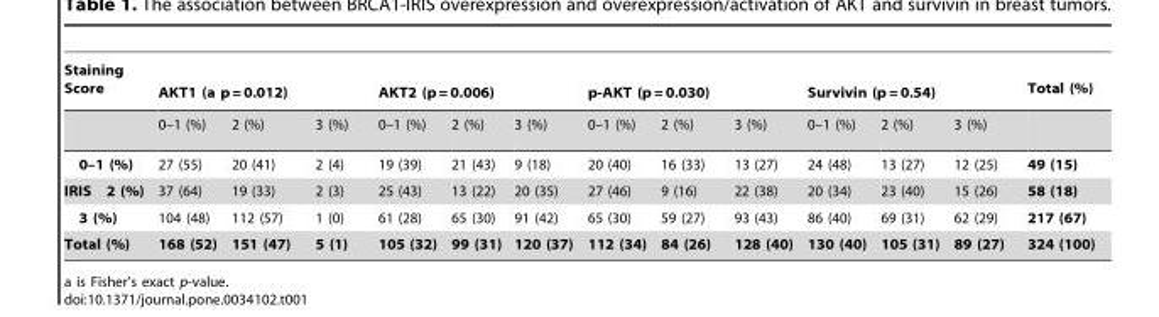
<table><thead><tr><td rowspan="2">Staining Score</td><td colspan="3">AKT1 (a p = 0.012)</td><td colspan="3">AKT2 (p = 0.006)</td><td colspan="3">p-AKT (p = 0.030)</td><td colspan="3">Survivin (p = 0.54)</td><td rowspan="2">Total (%)</td></tr><tr><td>0–1 (%)</td><td>2 (%)</td><td>3 (%)</td><td>0–1 (%)</td><td>2 (%)</td><td>3 (%)</td><td>0–1 (%)</td><td>2 (%)</td><td>3 (%)</td><td>0–1 (%)</td><td>2 (%)</td><td>3 (%)</td></tr></thead><tbody><tr><td>0–1 (%)</td><td>27 (55)</td><td>20 (41)</td><td>2 (4)</td><td>19 (39)</td><td>21 (43)</td><td>9 (18)</td><td>20 (40)</td><td>16 (33)</td><td>13 (27)</td><td>24 (48)</td><td>13 (27)</td><td>12 (25)</td><td>49 (15)</td></tr><tr><td>IRIS 2 (%)</td><td>37 (64)</td><td>19 (33)</td><td>2 (3)</td><td>25 (43)</td><td>13 (22)</td><td>20 (35)</td><td>27 (46)</td><td>9 (16)</td><td>22 (38)</td><td>20 (34)</td><td>23 (40)</td><td>15 (26)</td><td>58 (18)</td></tr><tr><td>3 (%)</td><td>104 (48)</td><td>112 (57)</td><td>1 (0)</td><td>61 (28)</td><td>65 (30)</td><td>91 (42)</td><td>65 (30)</td><td>59 (27)</td><td>93 (43)</td><td>86 (40)</td><td>69 (31)</td><td>62 (29)</td><td>217 (67)</td></tr><tr><td>Total (%)</td><td>168 (52)</td><td>151 (47)</td><td>5 (1)</td><td>105 (32)</td><td>99 (31)</td><td>120 (37)</td><td>112 (34)</td><td>84 (26)</td><td>128 (40)</td><td>130 (40)</td><td>105 (31)</td><td>89 (27)</td><td>324 (100)</td></tr></tbody></table>